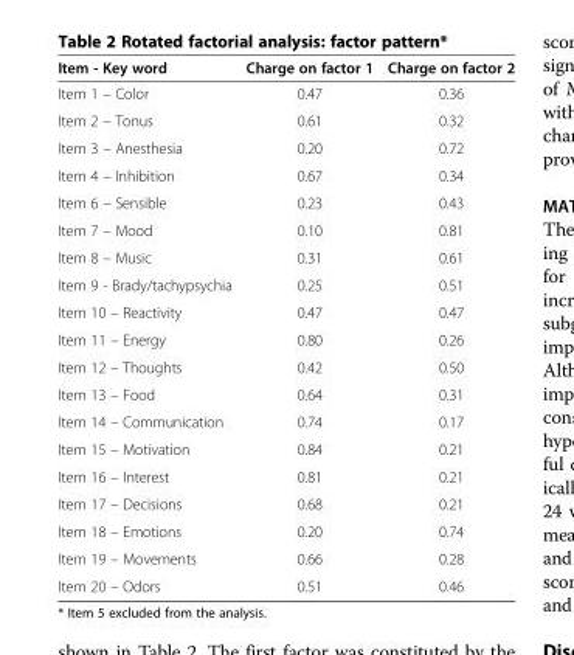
<table><thead><tr><td>Item - Key word</td><td>Charge on factor 1</td><td>Charge on factor 2</td></tr></thead><tbody><tr><td>Item 1 – Color</td><td>0.47</td><td>0.36</td></tr><tr><td>Item 2 – Tonus</td><td>0.61</td><td>0.32</td></tr><tr><td>Item 3 – Anesthesia</td><td>0.20</td><td>0.72</td></tr><tr><td>Item 4 – Inhibition</td><td>0.67</td><td>0.34</td></tr><tr><td>Item 6 – Sensible</td><td>0.23</td><td>0.43</td></tr><tr><td>Item 7 – Mood</td><td>0.10</td><td>0.81</td></tr><tr><td>Item 8 – Music</td><td>0.31</td><td>0.61</td></tr><tr><td>Item 9 - Brady/tachypsychia</td><td>0.25</td><td>0.51</td></tr><tr><td>Item 10 – Reactivity</td><td>0.47</td><td>0.47</td></tr><tr><td>Item 11 – Energy</td><td>0.80</td><td>0.26</td></tr><tr><td>Item 12 – Thoughts</td><td>0.42</td><td>0.50</td></tr><tr><td>Item 13 – Food</td><td>0.64</td><td>0.31</td></tr><tr><td>Item 14 – Communication</td><td>0.74</td><td>0.17</td></tr><tr><td>Item 15 – Motivation</td><td>0.84</td><td>0.21</td></tr><tr><td>Item 16 – Interest</td><td>0.81</td><td>0.21</td></tr><tr><td>Item 17 – Decisions</td><td>0.68</td><td>0.21</td></tr><tr><td>Item 18 – Emotions</td><td>0.20</td><td>0.74</td></tr><tr><td>Item 19 – Movements</td><td>0.66</td><td>0.28</td></tr><tr><td>Item 20 – Odors</td><td>0.51</td><td>0.46</td></tr></tbody></table>